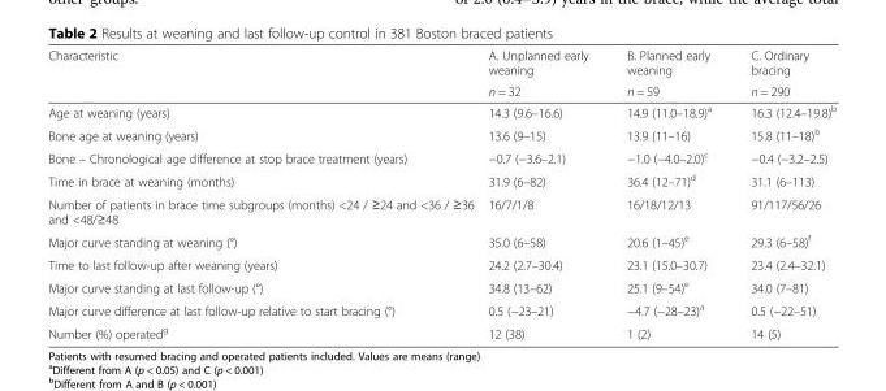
<table><thead><tr><td rowspan="2">Characteristic</td><td rowspan="2">A. Unplanned early weaning n = 32</td><td rowspan="2">B. Planned early weaning n = 59</td><td rowspan="2">C. Ordinary bracing n = 290</td></tr><tr></tr></thead><tbody><tr><td>Age at weaning (years)</td><td>14.3 (9.6–16.6)</td><td>14.9 (11.0–18.9)<sup>a</sup></td><td>16.3 (12.4–19.8)<sup>b</sup></td></tr><tr><td>Bone age at weaning (years)</td><td>13.6 (9–15)</td><td>13.9 (11–16)</td><td>15.8 (11–18)<sup>b</sup></td></tr><tr><td>Bone – Chronological age difference at stop brace treatment (years)</td><td>−0.7 (−3.6–2.1)</td><td>−1.0 (−4.0–2.0)<sup>c</sup></td><td>−0.4 (−3.2–2.5)</td></tr><tr><td>Time in brace at weaning (months)</td><td>31.9 (6–82)</td><td>36.4 (12–71)<sup>d</sup></td><td>31.1 (6–113)</td></tr><tr><td>Number of patients in brace time subgroups (months) &lt;24 / ≥24 and &lt;36 / ≥36 and &lt;48/≥48</td><td>16/7/1/8</td><td>16/18/12/13</td><td>91/117/56/26</td></tr><tr><td>Major curve standing at weaning (°)</td><td>35.0 (6–58)</td><td>20.6 (1–45)<sup>e</sup></td><td>29.3 (6–58)<sup>f</sup></td></tr><tr><td>Time to last follow-up after weaning (years)</td><td>24.2 (2.7–30.4)</td><td>23.1 (15.0–30.7)</td><td>23.4 (2.4–32.1)</td></tr><tr><td>Major curve standing at last follow-up (°)</td><td>34.8 (13–62)</td><td>25.1 (9–54)<sup>e</sup></td><td>34.0 (7–81)</td></tr><tr><td>Major curve difference at last follow-up relative to start bracing (°)</td><td>0.5 (−23–21)</td><td>−4.7 (−28–23)<sup>a</sup></td><td>0.5 (−22–51)</td></tr><tr><td>Number (%) operated<sup>g</sup></td><td>12 (38)</td><td>1 (2)</td><td>14 (5)</td></tr></tbody></table>